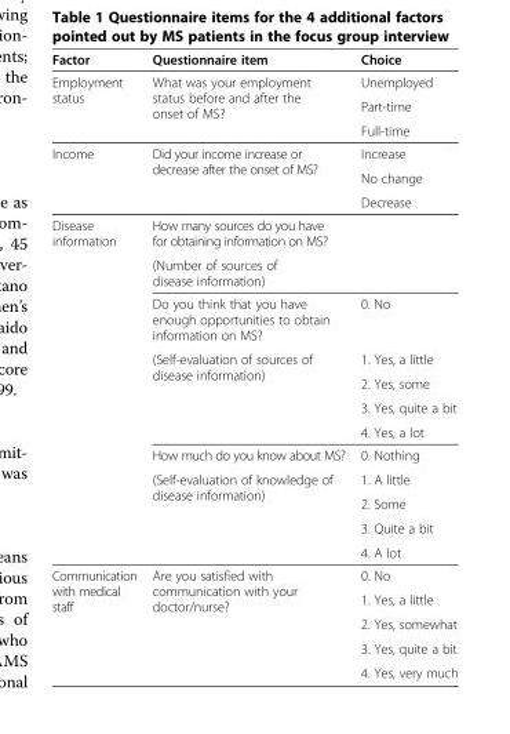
<table><thead><tr><td>Factor</td><td>Questionnaire item</td><td>Choice</td></tr></thead><tbody><tr><td rowspan="3">Employment status</td><td rowspan="3">What was your employment status before and after the onset of MS?</td><td>Unemployed</td></tr><tr><td>Part-time</td></tr><tr><td>Full-time</td></tr><tr><td rowspan="3">Income</td><td rowspan="3">Did your income increase or decrease after the onset of MS?</td><td>Increase</td></tr><tr><td>No change</td></tr><tr><td>Decrease</td></tr><tr><td rowspan="12">Disease information</td><td>How many sources do you have for obtaining information on MS?</td><td></td></tr><tr><td>(Number of sources of disease information)</td><td></td></tr><tr><td>Do you think that you have enough opportunities to obtain information on MS?</td><td>0. No</td></tr><tr><td rowspan="4">(Self-evaluation of sources of disease information)</td><td>1. Yes, a little</td></tr><tr><td>2. Yes, some</td></tr><tr><td>3. Yes, quite a bit</td></tr><tr><td>4. Yes, a lot</td></tr><tr><td>How much do you know about MS?</td><td>0. Nothing</td></tr><tr><td rowspan="4">(Self-evaluation of knowledge of disease information)</td><td>1. A little</td></tr><tr><td>2. Some</td></tr><tr><td>3. Quite a bit</td></tr><tr><td>4. A lot</td></tr><tr><td rowspan="5">Communication with medical staff</td><td rowspan="5">Are you satisfied with communication with your doctor/nurse?</td><td>0. No</td></tr><tr><td>1. Yes, a little</td></tr><tr><td>2. Yes, somewhat</td></tr><tr><td>3. Yes, quite a bit</td></tr><tr><td>4. Yes, very much</td></tr></tbody></table>